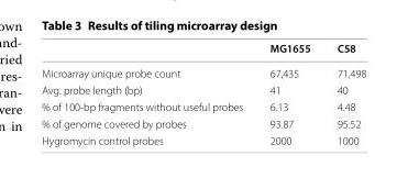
<table><thead><tr><td></td><td>MG1655</td><td>C58</td></tr></thead><tbody><tr><td>Microarray unique probe count</td><td>67,435</td><td>71,498</td></tr><tr><td>Avg. probe length (bp)</td><td>41</td><td>40</td></tr><tr><td>% of 100‑bp fragments without useful probes</td><td>6.13</td><td>4.48</td></tr><tr><td>% of genome covered by probes</td><td>93.87</td><td>95.52</td></tr><tr><td>Hygromycin control probes</td><td>2000</td><td>1000</td></tr></tbody></table>